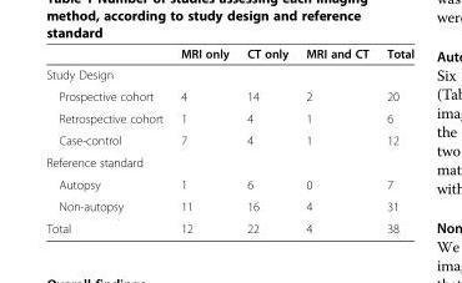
<table><thead><tr><td></td><td>MRI only</td><td>CT only</td><td>MRI and CT</td><td>Total</td></tr></thead><tbody><tr><td colspan="5">Study Design</td></tr><tr><td>Prospective cohort</td><td>4</td><td>14</td><td>2</td><td>20</td></tr><tr><td>Retrospective cohort</td><td>1</td><td>4</td><td>1</td><td>6</td></tr><tr><td>Case-control</td><td>7</td><td>4</td><td>1</td><td>12</td></tr><tr><td colspan="5">Reference standard</td></tr><tr><td>Autopsy</td><td>1</td><td>6</td><td>0</td><td>7</td></tr><tr><td>Non-autopsy</td><td>11</td><td>16</td><td>4</td><td>31</td></tr><tr><td>Total</td><td>12</td><td>22</td><td>4</td><td>38</td></tr></tbody></table>